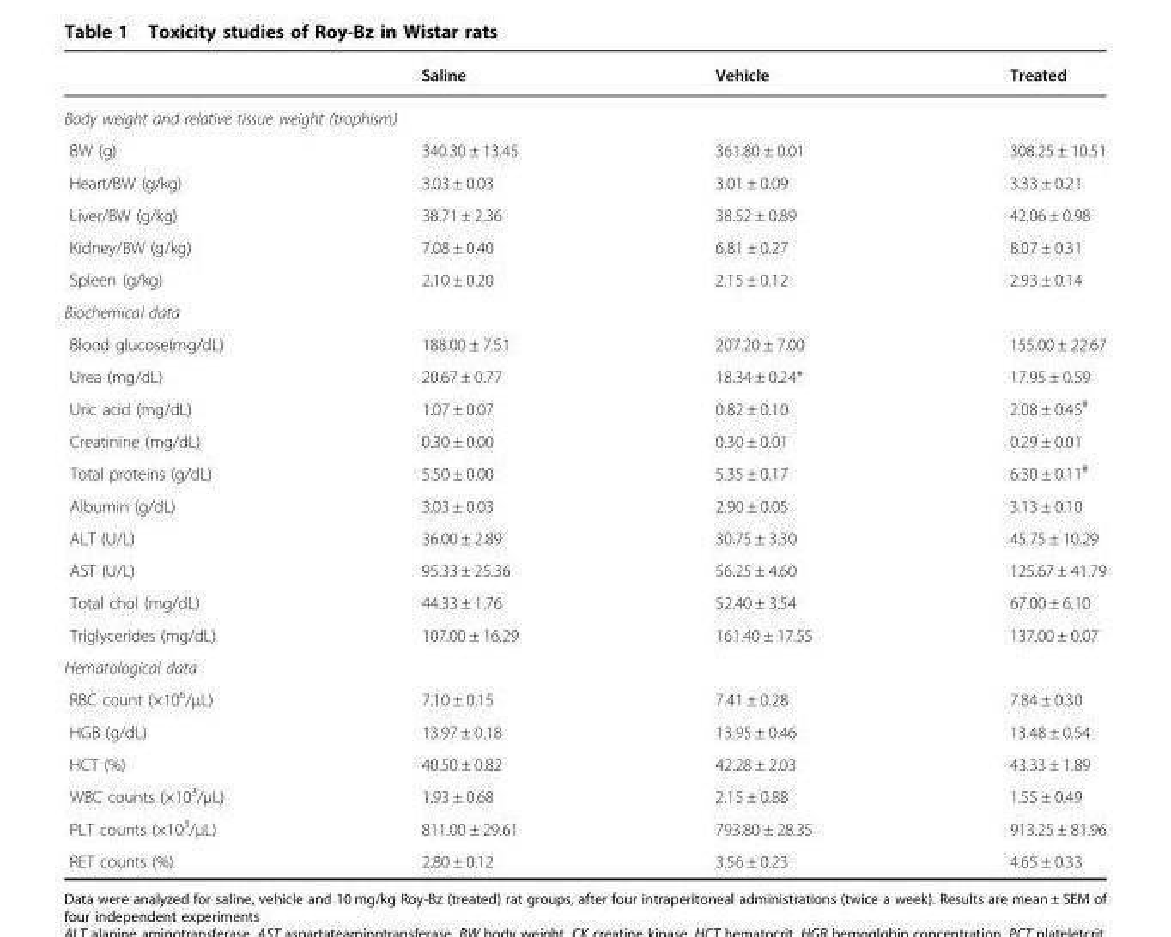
<table><thead><tr><td></td><td>Saline</td><td>Vehicle</td><td>Treated</td></tr></thead><tbody><tr><td colspan="4">Body weight and relative tissue weight (trophism)</td></tr><tr><td>BW (g)</td><td>340.30 ± 13.45</td><td>361.80 ± 0.01</td><td>308.25 ± 10.51</td></tr><tr><td>Heart/BW (g/kg)</td><td>3.03 ± 0.03</td><td>3.01 ± 0.09</td><td>3.33 ± 0.21</td></tr><tr><td>Liver/BW (g/kg)</td><td>38.71 ± 2,36</td><td>38.52 ± 0.89</td><td>42.06 ± 0.98</td></tr><tr><td>Kidney/BW (g/kg)</td><td>7.08 ± 0.40</td><td>6.81 ± 0.27</td><td>8.07 ± 0.31</td></tr><tr><td>Spleen (g/kg)</td><td>2.10 ± 0.20</td><td>2.15 ± 0.12</td><td>2.93 ± 0.14</td></tr><tr><td colspan="4">Biochemical data</td></tr><tr><td>Blood glucose(mg/dL)</td><td>188.00 ± 7.51</td><td>207.20 ± 7.00</td><td>155.00 ± 22.67</td></tr><tr><td>Urea (mg/dL)</td><td>20.67 ± 0.77</td><td>18.34 ± 0.24*</td><td>17.95 ± 0.59</td></tr><tr><td>Uric acid (mg/dL)</td><td>1.07 ± 0.07</td><td>0.82 ± 0.10</td><td>2.08 ± 0.45<sup>#</sup></td></tr><tr><td>Creatinine (mg/dL)</td><td>0.30 ± 0.00</td><td>0.30 ± 0.01</td><td>0.29 ± 0.01</td></tr><tr><td>Total proteins (g/dL)</td><td>5.50 ± 0.00</td><td>5.35 ± 0.17</td><td>6.30 ± 0.11<sup>#</sup></td></tr><tr><td>Albumin (g/dL)</td><td>3.03 ± 0.03</td><td>2.90 ± 0.05</td><td>3.13 ± 0.10</td></tr><tr><td>ALT (U/L)</td><td>36.00 ± 2.89</td><td>30.75 ± 3.30</td><td>45.75 ± 10.29</td></tr><tr><td>AST (U/L)</td><td>95.33 ± 25.36</td><td>56.25 ± 4.60</td><td>125.67 ± 41.79</td></tr><tr><td>Total chol (mg/dL)</td><td>44.33 ± 1.76</td><td>52.40 ± 3.54</td><td>67.00 ± 6.10</td></tr><tr><td>Triglycerides (mg/dL)</td><td>107.00 ± 16.29</td><td>161.40 ± 17.55</td><td>137.00 ± 0.07</td></tr><tr><td colspan="4">Hematological data</td></tr><tr><td>RBC count (×10<sup>6</sup>/µL)</td><td>7.10 ± 0.15</td><td>7.41 ± 0.28</td><td>7.84 ± 0.30</td></tr><tr><td>HGB (g/dL)</td><td>13.97 ± 0.18</td><td>13.95 ± 0.46</td><td>13.48 ± 0.54</td></tr><tr><td>HCT (%)</td><td>40.50 ± 0.82</td><td>42.28 ± 2.03</td><td>43.33 ± 1.89</td></tr><tr><td>WBC counts (×10<sup>3</sup>/µL)</td><td>1.93 ± 0.68</td><td>2.15 ± 0.88</td><td>1.55 ± 0.49</td></tr><tr><td>PLT counts (×10<sup>3</sup>/µL)</td><td>811.00 ± 29.61</td><td>793.80 ± 28.35</td><td>913.25 ± 81.96</td></tr><tr><td>RET counts (%)</td><td>2.80 ± 0.12</td><td>3.56 ± 0.23</td><td>4.65 ± 0.33</td></tr></tbody></table>